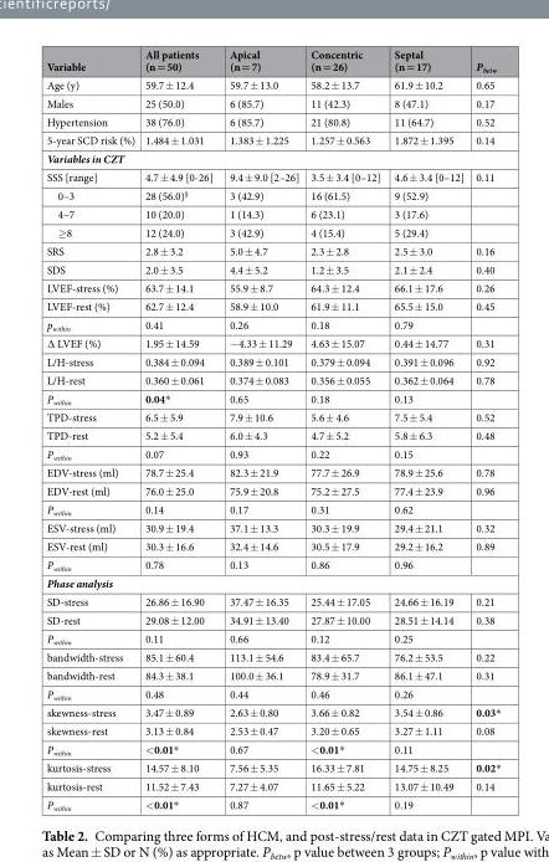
<table><thead><tr><td>Variable</td><td>All patients (n = 50)</td><td>Apical (n = 7)</td><td>Concentric (n = 26)</td><td>Septal (n = 17)</td><td>P<sub>betw</sub></td></tr></thead><tbody><tr><td>Age (y)</td><td>59.7 ± 12.4</td><td>59.7 ± 13.0</td><td>58.2 ± 13.7</td><td>61.9 ± 10.2</td><td>0.65</td></tr><tr><td>Males</td><td>25 (50.0)</td><td>6 (85.7)</td><td>11 (42.3)</td><td>8 (47.1)</td><td>0.17</td></tr><tr><td>Hypertension</td><td>38 (76.0)</td><td>6 (85.7)</td><td>21 (80.8)</td><td>11 (64.7)</td><td>0.52</td></tr><tr><td>5-year SCD risk (%)</td><td>1.484 ± 1.031</td><td>1.383 ± 1.225</td><td>1.257 ± 0.563</td><td>1.872 ± 1.395</td><td>0.14</td></tr><tr><td colspan="6">Variables in CZT</td></tr><tr><td>SSS [range]</td><td>4.7 ± 4.9 [0-26]</td><td>9.4 ± 9.0 [2–26]</td><td>3.5 ± 3.4 [0–12]</td><td>4.6 ± 3.4 [0–12]</td><td>0.11</td></tr><tr><td>0–3</td><td>28 (56.0)<sup>§</sup></td><td>3 (42.9)</td><td>16 (61.5)</td><td>9 (52.9)</td><td></td></tr><tr><td>4–7</td><td>10 (20.0)</td><td>1 (14.3)</td><td>6 (23.1)</td><td>3 (17.6)</td><td></td></tr><tr><td>≥8</td><td>12 (24.0)</td><td>3 (42.9)</td><td>4 (15.4)</td><td>5 (29.4)</td><td></td></tr><tr><td>SRS</td><td>2.8 ± 3.2</td><td>5.0 ± 4.7</td><td>2.3 ± 2.8</td><td>2.5 ± 3.0</td><td>0.16</td></tr><tr><td>SDS</td><td>2.0 ± 3.5</td><td>4.4 ± 5.2</td><td>1.2 ± 3.5</td><td>2.1 ± 2.4</td><td>0.40</td></tr><tr><td>LVEF-stress (%)</td><td>63.7 ± 14.1</td><td>55.9 ± 8.7</td><td>64.3 ± 12.4</td><td>66.1 ± 17.6</td><td>0.26</td></tr><tr><td>LVEF-rest (%)</td><td>62.7 ± 12.4</td><td>58.9 ± 10.0</td><td>61.9 ± 11.1</td><td>65.5 ± 15.0</td><td>0.45</td></tr><tr><td>p<sub>within</sub></td><td>0.41</td><td>0.26</td><td>0.18</td><td>0.79</td><td></td></tr><tr><td>∆ LVEF (%)</td><td>1.95 ± 14.59</td><td>−4.33 ± 11.29</td><td>4.63 ± 15.07</td><td>0.44 ± 14.77</td><td>0.31</td></tr><tr><td>L/H-stress</td><td>0.384 ± 0.094</td><td>0.389 ± 0.101</td><td>0.379 ± 0.094</td><td>0.391 ± 0.096</td><td>0.92</td></tr><tr><td>L/H-rest</td><td>0.360 ± 0.061</td><td>0.374 ± 0.083</td><td>0.356 ± 0.055</td><td>0.362 ± 0.064</td><td>0.78</td></tr><tr><td>P<sub>within</sub></td><td>0.04*</td><td>0.65</td><td>0.18</td><td>0.13</td><td></td></tr><tr><td>TPD-stress</td><td>6.5 ± 5.9</td><td>7.9 ± 10.6</td><td>5.6 ± 4.6</td><td>7.5 ± 5.4</td><td>0.52</td></tr><tr><td>TPD-rest</td><td>5.2 ± 5.4</td><td>6.0 ± 4.3</td><td>4.7 ± 5.2</td><td>5.8 ± 6.3</td><td>0.48</td></tr><tr><td>P<sub>within</sub></td><td>0.07</td><td>0.93</td><td>0.22</td><td>0.15</td><td></td></tr><tr><td>EDV-stress (ml)</td><td>78.7 ± 25.4</td><td>82.3 ± 21.9</td><td>77.7 ± 26.9</td><td>78.9 ± 25.6</td><td>0.78</td></tr><tr><td>EDV-rest (ml)</td><td>76.0 ± 25.0</td><td>75.9 ± 20.8</td><td>75.2 ± 27.5</td><td>77.4 ± 23.9</td><td>0.96</td></tr><tr><td>P<sub>within</sub></td><td>0.14</td><td>0.17</td><td>0.31</td><td>0.62</td><td></td></tr><tr><td>ESV-stress (ml)</td><td>30.9 ± 19.4</td><td>37.1 ± 13.3</td><td>30.3 ± 19.9</td><td>29.4 ± 21.1</td><td>0.32</td></tr><tr><td>ESV-rest (ml)</td><td>30.3 ± 16.6</td><td>32.4 ± 14.6</td><td>30.5 ± 17.9</td><td>29.2 ± 16.2</td><td>0.89</td></tr><tr><td>P<sub>within</sub></td><td>0.78</td><td>0.13</td><td>0.86</td><td>0.96</td><td></td></tr><tr><td colspan="6">Phase analysis</td></tr><tr><td>SD-stress</td><td>26.86 ± 16.90</td><td>37.47 ± 16.35</td><td>25.44 ± 17.05</td><td>24.66 ± 16.19</td><td>0.21</td></tr><tr><td>SD-rest</td><td>29.08 ± 12.00</td><td>34.91 ± 13.40</td><td>27.87 ± 10.00</td><td>28.51 ± 14.14</td><td>0.38</td></tr><tr><td>P<sub>within</sub></td><td>0.11</td><td>0.66</td><td>0.12</td><td>0.25</td><td></td></tr><tr><td>bandwidth-stress</td><td>85.1 ± 60.4</td><td>113.1 ± 54.6</td><td>83.4 ± 65.7</td><td>76.2 ± 53.5</td><td>0.22</td></tr><tr><td>bandwidth-rest</td><td>84.3 ± 38.1</td><td>100.0 ± 36.1</td><td>78.9 ± 31.7</td><td>86.1 ± 47.1</td><td>0.31</td></tr><tr><td>P<sub>within</sub></td><td>0.48</td><td>0.44</td><td>0.46</td><td>0.26</td><td></td></tr><tr><td>skewness-stress</td><td>3.47 ± 0.89</td><td>2.63 ± 0.80</td><td>3.66 ± 0.82</td><td>3.54 ± 0.86</td><td>0.03*</td></tr><tr><td>skewness-rest</td><td>3.13 ± 0.84</td><td>2.53 ± 0.47</td><td>3.20 ± 0.65</td><td>3.27 ± 1.11</td><td>0.08</td></tr><tr><td>P<sub>within</sub></td><td>&lt;0.01*</td><td>0.67</td><td>&lt;0.01*</td><td>0.11</td><td></td></tr><tr><td>kurtosis-stress</td><td>14.57 ± 8.10</td><td>7.56 ± 5.35</td><td>16.33 ± 7.81</td><td>14.75 ± 8.25</td><td>0.02*</td></tr><tr><td>kurtosis-rest</td><td>11.52 ± 7.43</td><td>7.27 ± 4.07</td><td>11.65 ± 5.22</td><td>13.07 ± 10.49</td><td>0.14</td></tr><tr><td>P<sub>within</sub></td><td>&lt;0.01*</td><td>0.87</td><td>&lt;0.01*</td><td>0.19</td><td></td></tr></tbody></table>